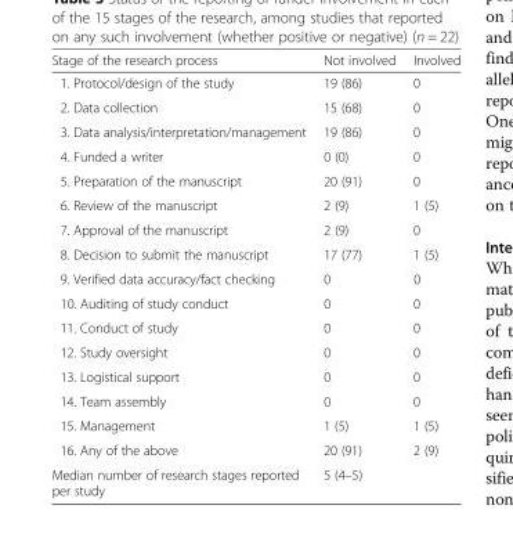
<table><thead><tr><td>Stage of the research process</td><td>Not involved</td><td>Involved</td></tr></thead><tbody><tr><td>1. Protocol/design of the study</td><td>19 (86)</td><td>0</td></tr><tr><td>2. Data collection</td><td>15 (68)</td><td>0</td></tr><tr><td>3. Data analysis/interpretation/management</td><td>19 (86)</td><td>0</td></tr><tr><td>4. Funded a writer</td><td>0 (0)</td><td>0</td></tr><tr><td>5. Preparation of the manuscript</td><td>20 (91)</td><td>0</td></tr><tr><td>6. Review of the manuscript</td><td>2 (9)</td><td>1 (5)</td></tr><tr><td>7. Approval of the manuscript</td><td>2 (9)</td><td>0</td></tr><tr><td>8. Decision to submit the manuscript</td><td>17 (77)</td><td>1 (5)</td></tr><tr><td>9. Verified data accuracy/fact checking</td><td>0</td><td>0</td></tr><tr><td>10. Auditing of study conduct</td><td>0</td><td>0</td></tr><tr><td>11. Conduct of study</td><td>0</td><td>0</td></tr><tr><td>12. Study oversight</td><td>0</td><td>0</td></tr><tr><td>13. Logistical support</td><td>0</td><td>0</td></tr><tr><td>14. Team assembly</td><td>0</td><td>0</td></tr><tr><td>15. Management</td><td>1 (5)</td><td>1 (5)</td></tr><tr><td>16. Any of the above</td><td>20 (91)</td><td>2 (9)</td></tr><tr><td>Median number of research stages reported per study</td><td colspan="2">5 (4–5)</td></tr></tbody></table>